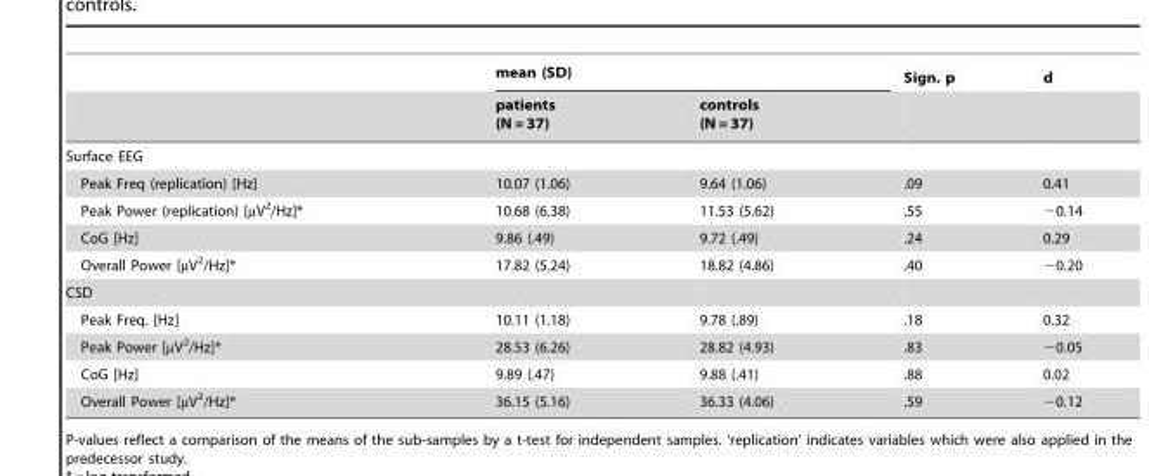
<table><thead><tr><td rowspan="2"></td><td colspan="2">mean (SD)</td><td rowspan="2">Sign. p</td><td rowspan="2">d</td></tr><tr><td>patients (N = 37)</td><td>controls (N = 37)</td></tr></thead><tbody><tr><td colspan="5">Surface EEG</td></tr><tr><td>Peak Freq (replication) [Hz]</td><td>10.07 (1.06)</td><td>9.64 (1.06)</td><td>.09</td><td>0.41</td></tr><tr><td>Peak Power (replication) [µV<sup>2</sup>/Hz]*</td><td>10.68 (6.38)</td><td>11.53 (5.62)</td><td>.55</td><td>−0.14</td></tr><tr><td>CoG [Hz]</td><td>9.86 (.49)</td><td>9.72 (.49)</td><td>.24</td><td>0.29</td></tr><tr><td>Overall Power [µV<sup>2</sup>/Hz]*</td><td>17.82 (5.24)</td><td>18.82 (4.86)</td><td>.40</td><td>−0.20</td></tr><tr><td colspan="5">CSD</td></tr><tr><td>Peak Freq. [Hz]</td><td>10.11 (1.18)</td><td>9.78 (.89)</td><td>.18</td><td>0.32</td></tr><tr><td>Peak Power [µV<sup>2</sup>/Hz]*</td><td>28.53 (6.26)</td><td>28.82 (4.93)</td><td>.83</td><td>−0.05</td></tr><tr><td>CoG [Hz]</td><td>9.89 (.47)</td><td>9.88 (.41)</td><td>.88</td><td>0.02</td></tr><tr><td>Overall Power [µV<sup>2</sup>/Hz]*</td><td>36.15 (5.16)</td><td>36.33 (4.06)</td><td>.59</td><td>−0.12</td></tr></tbody></table>